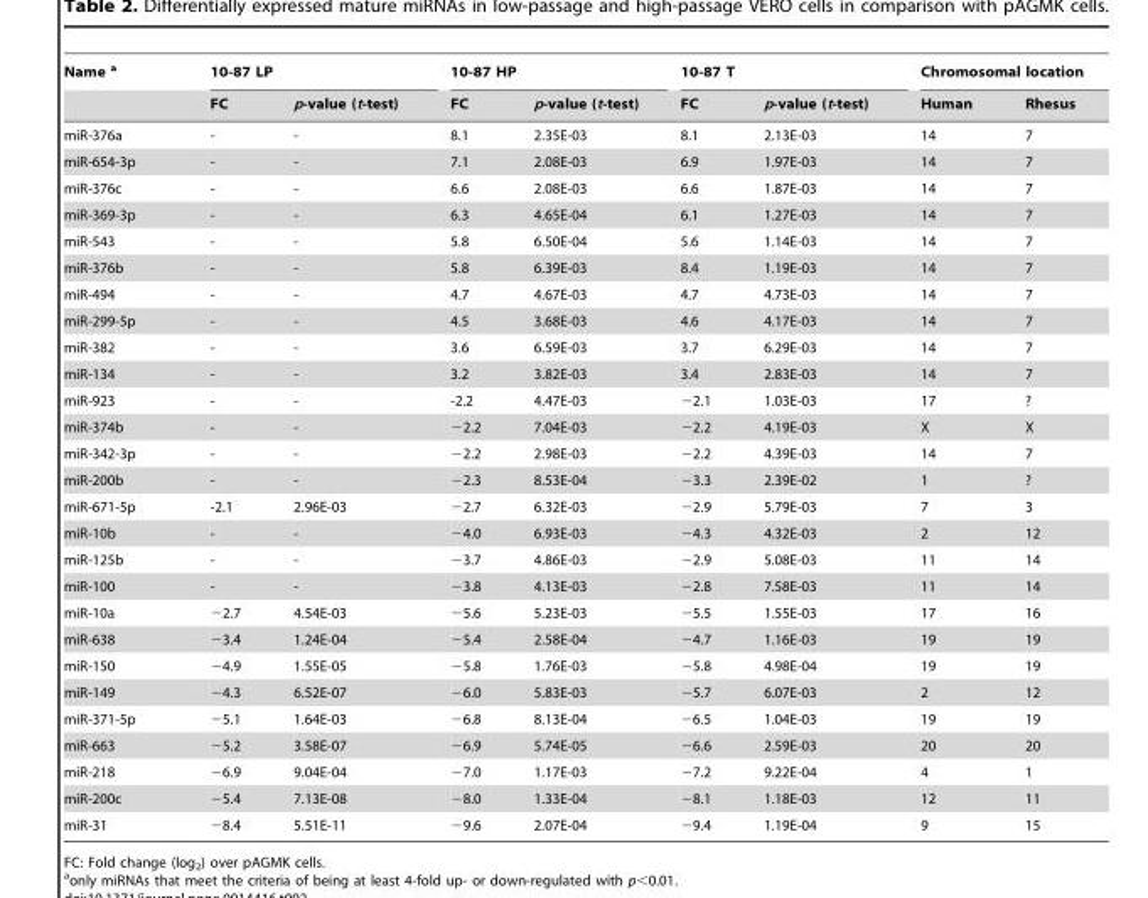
<table><thead><tr><td rowspan="2">Name a</td><td colspan="2">10-87 LP</td><td colspan="2">10-87 HP</td><td colspan="2">10-87 T</td><td colspan="2">Chromosomal location</td></tr><tr><td>FC</td><td>p-value (t-test)</td><td>FC</td><td>p-value (t-test)</td><td>FC</td><td>p-value (t-test)</td><td>Human</td><td>Rhesus</td></tr></thead><tbody><tr><td>miR-376a</td><td>-</td><td>-</td><td>8.1</td><td>2.35E-03</td><td>8.1</td><td>2.13E-03</td><td>14</td><td>7</td></tr><tr><td>miR-654-3p</td><td>-</td><td>-</td><td>7.1</td><td>2.08E-03</td><td>6.9</td><td>1.97E-03</td><td>14</td><td>7</td></tr><tr><td>miR-376c</td><td>-</td><td>-</td><td>6.6</td><td>2.08E-03</td><td>6.6</td><td>1.87E-03</td><td>14</td><td>7</td></tr><tr><td>miR-369-3p</td><td>-</td><td>-</td><td>6.3</td><td>4.65E-04</td><td>6.1</td><td>1.27E-03</td><td>14</td><td>7</td></tr><tr><td>miR-543</td><td>-</td><td>-</td><td>5.8</td><td>6.50E-04</td><td>5.6</td><td>1.14E-03</td><td>14</td><td>7</td></tr><tr><td>miR-376b</td><td>-</td><td>-</td><td>5.8</td><td>6.39E-03</td><td>8.4</td><td>1.19E-03</td><td>14</td><td>7</td></tr><tr><td>miR-494</td><td>-</td><td>-</td><td>4.7</td><td>4.67E-03</td><td>4.7</td><td>4.73E-03</td><td>14</td><td>7</td></tr><tr><td>miR-299-5p</td><td>-</td><td>-</td><td>4.5</td><td>3.68E-03</td><td>4.6</td><td>4.17E-03</td><td>14</td><td>7</td></tr><tr><td>miR-382</td><td>-</td><td>-</td><td>3.6</td><td>6.59E-03</td><td>3.7</td><td>6.29E-03</td><td>14</td><td>7</td></tr><tr><td>miR-134</td><td>-</td><td>-</td><td>3.2</td><td>3.82E-03</td><td>3.4</td><td>2.83E-03</td><td>14</td><td>7</td></tr><tr><td>miR-923</td><td>-</td><td>-</td><td>-2.2</td><td>4.47E-03</td><td>−2.1</td><td>1.03E-03</td><td>17</td><td>?</td></tr><tr><td>miR-374b</td><td>-</td><td>-</td><td>−2.2</td><td>7.04E-03</td><td>−2.2</td><td>4.19E-03</td><td>X</td><td>X</td></tr><tr><td>miR-342-3p</td><td>-</td><td>-</td><td>−2.2</td><td>2.98E-03</td><td>−2.2</td><td>4.39E-03</td><td>14</td><td>7</td></tr><tr><td>miR-200b</td><td>-</td><td>-</td><td>−2.3</td><td>8.53E-04</td><td>−3.3</td><td>2.39E-02</td><td>1</td><td>?</td></tr><tr><td>miR-671-5p</td><td>-2.1</td><td>2.96E-03</td><td>−2.7</td><td>6.32E-03</td><td>−2.9</td><td>5.79E-03</td><td>7</td><td>3</td></tr><tr><td>miR-10b</td><td>-</td><td>-</td><td>−4.0</td><td>6.93E-03</td><td>−4.3</td><td>4.32E-03</td><td>2</td><td>12</td></tr><tr><td>miR-125b</td><td>-</td><td>-</td><td>−3.7</td><td>4.86E-03</td><td>−2.9</td><td>5.08E-03</td><td>11</td><td>14</td></tr><tr><td>miR-100</td><td>-</td><td>-</td><td>−3.8</td><td>4.13E-03</td><td>−2.8</td><td>7.58E-03</td><td>11</td><td>14</td></tr><tr><td>miR-10a</td><td>−2.7</td><td>4.54E-03</td><td>−5.6</td><td>5.23E-03</td><td>−5.5</td><td>1.55E-03</td><td>17</td><td>16</td></tr><tr><td>miR-638</td><td>−3.4</td><td>1.24E-04</td><td>−5.4</td><td>2.58E-04</td><td>−4.7</td><td>1.16E-03</td><td>19</td><td>19</td></tr><tr><td>miR-150</td><td>−4.9</td><td>1.55E-05</td><td>−5.8</td><td>1.76E-03</td><td>−5.8</td><td>4.98E-04</td><td>19</td><td>19</td></tr><tr><td>miR-149</td><td>−4.3</td><td>6.52E-07</td><td>−6.0</td><td>5.83E-03</td><td>−5.7</td><td>6.07E-03</td><td>2</td><td>12</td></tr><tr><td>miR-371-5p</td><td>−5.1</td><td>1.64E-03</td><td>−6.8</td><td>8.13E-04</td><td>−6.5</td><td>1.04E-03</td><td>19</td><td>19</td></tr><tr><td>miR-663</td><td>−5.2</td><td>3.58E-07</td><td>−6.9</td><td>5.74E-05</td><td>−6.6</td><td>2.59E-03</td><td>20</td><td>20</td></tr><tr><td>miR-218</td><td>−6.9</td><td>9.04E-04</td><td>−7.0</td><td>1.17E-03</td><td>−7.2</td><td>9.22E-04</td><td>4</td><td>1</td></tr><tr><td>miR-200c</td><td>−5.4</td><td>7.13E-08</td><td>−8.0</td><td>1.33E-04</td><td>−8.1</td><td>1.18E-03</td><td>12</td><td>11</td></tr><tr><td>miR-31</td><td>−8.4</td><td>5.51E-11</td><td>−9.6</td><td>2.07E-04</td><td>−9.4</td><td>1.19E-04</td><td>9</td><td>15</td></tr></tbody></table>